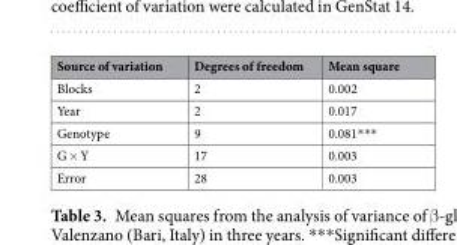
<table><thead><tr><td>Source of variation</td><td>Degrees of freedom</td><td>Mean square</td></tr></thead><tbody><tr><td>Blocks</td><td>2</td><td>0.002</td></tr><tr><td>Year</td><td>2</td><td>0.017</td></tr><tr><td>Genotype</td><td>9</td><td>0.081***</td></tr><tr><td>G × Y</td><td>17</td><td>0.003</td></tr><tr><td>Error</td><td>28</td><td>0.003</td></tr></tbody></table>